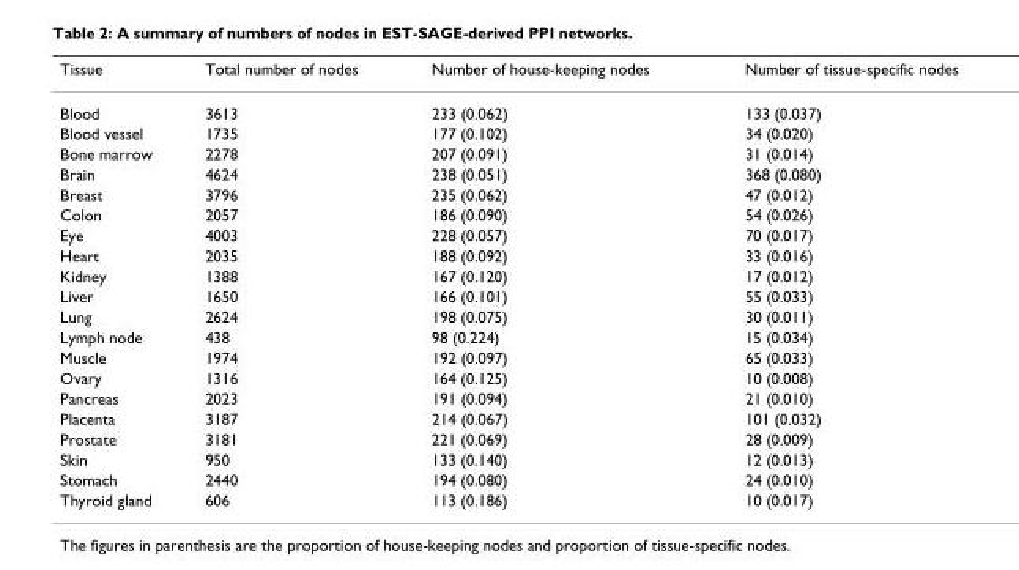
<table><thead><tr><td>Tissue</td><td>Total number of nodes</td><td>Number of house-keeping nodes</td><td>Number of tissue-specific nodes</td></tr></thead><tbody><tr><td>Blood</td><td>3613</td><td>233 (0.062)</td><td>133 (0.037)</td></tr><tr><td>Blood vessel</td><td>1735</td><td>177 (0.102)</td><td>34 (0.020)</td></tr><tr><td>Bone marrow</td><td>2278</td><td>207 (0.091)</td><td>31 (0.014)</td></tr><tr><td>Brain</td><td>4624</td><td>238 (0.051)</td><td>368 (0.080)</td></tr><tr><td>Breast</td><td>3796</td><td>235 (0.062)</td><td>47 (0.012)</td></tr><tr><td>Colon</td><td>2057</td><td>186 (0.090)</td><td>54 (0.026)</td></tr><tr><td>Eye</td><td>4003</td><td>228 (0.057)</td><td>70 (0.017)</td></tr><tr><td>Heart</td><td>2035</td><td>188 (0.092)</td><td>33 (0.016)</td></tr><tr><td>Kidney</td><td>1388</td><td>167 (0.120)</td><td>17 (0.012)</td></tr><tr><td>Liver</td><td>1650</td><td>166 (0.101)</td><td>55 (0.033)</td></tr><tr><td>Lung</td><td>2624</td><td>198 (0.075)</td><td>30 (0.011)</td></tr><tr><td>Lymph node</td><td>438</td><td>98 (0.224)</td><td>15 (0.034)</td></tr><tr><td>Muscle</td><td>1974</td><td>192 (0.097)</td><td>65 (0.033)</td></tr><tr><td>Ovary</td><td>1316</td><td>164 (0.125)</td><td>10 (0.008)</td></tr><tr><td>Pancreas</td><td>2023</td><td>191 (0.094)</td><td>21 (0.010)</td></tr><tr><td>Placenta</td><td>3187</td><td>214 (0.067)</td><td>101 (0.032)</td></tr><tr><td>Prostate</td><td>3181</td><td>221 (0.069)</td><td>28 (0.009)</td></tr><tr><td>Skin</td><td>950</td><td>133 (0.140)</td><td>12 (0.013)</td></tr><tr><td>Stomach</td><td>2440</td><td>194 (0.080)</td><td>24 (0.010)</td></tr><tr><td>Thyroid gland</td><td>606</td><td>113 (0.186)</td><td>10 (0.017)</td></tr></tbody></table>